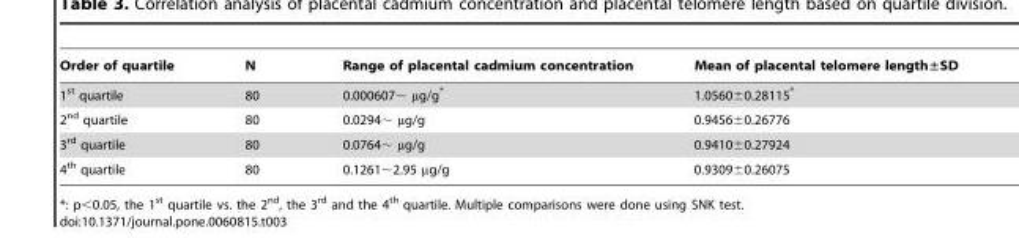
<table><thead><tr><td>Order of quartile</td><td>N</td><td>Range of placental cadmium concentration</td><td>Mean of placental telomere length±SD</td></tr></thead><tbody><tr><td>1<sup>st</sup> quartile</td><td>80</td><td>0.000607∼ µg/g*</td><td>1.0560±0.28115*</td></tr><tr><td>2<sup>nd</sup> quartile</td><td>80</td><td>0.0294∼ µg/g</td><td>0.9456±0.26776</td></tr><tr><td>3<sup>rd</sup> quartile</td><td>80</td><td>0.0764∼ µg/g</td><td>0.9410±0.27924</td></tr><tr><td>4<sup>th</sup> quartile</td><td>80</td><td>0.1261∼2.95 µg/g</td><td>0.9309±0.26075</td></tr></tbody></table>